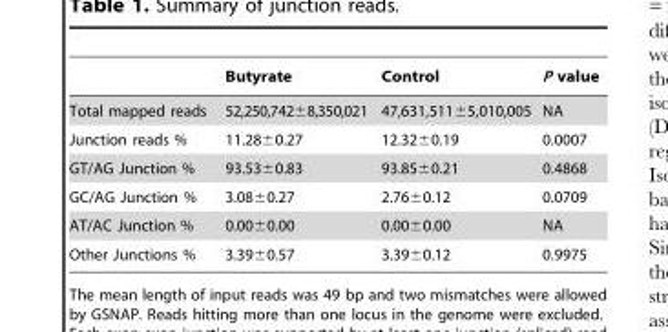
<table><thead><tr><td></td><td>Butyrate</td><td>Control</td><td>P value</td></tr></thead><tbody><tr><td>Total mapped reads</td><td>52,250,742±8,350,021</td><td>47,631,511±5,010,005</td><td>NA</td></tr><tr><td>Junction reads %</td><td>11.28±0.27</td><td>12.32±0.19</td><td>0.0007</td></tr><tr><td>GT/AG Junction %</td><td>93.53±0.83</td><td>93.85±0.21</td><td>0.4868</td></tr><tr><td>GC/AG Junction %</td><td>3.08±0.27</td><td>2.76±0.12</td><td>0.0709</td></tr><tr><td>AT/AC Junction %</td><td>0.00±0.00</td><td>0.00±0.00</td><td>NA</td></tr><tr><td>Other Junctions %</td><td>3.39±0.57</td><td>3.39±0.12</td><td>0.9975</td></tr></tbody></table>